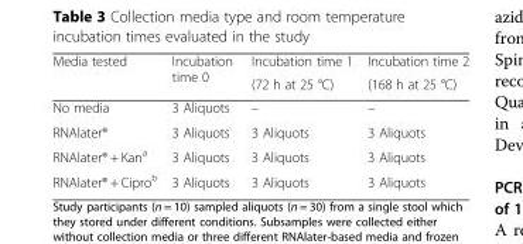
<table><thead><tr><td rowspan="2">Media tested</td><td rowspan="2">Incubation time 0</td><td rowspan="2">Incubation time 1 (72 h at 25 °C)</td><td rowspan="2">Incubation time 2 (168 h at 25 °C)</td></tr><tr></tr></thead><tbody><tr><td>No media</td><td>3 Aliquots</td><td>–</td><td>–</td></tr><tr><td>RNAlater®</td><td>3 Aliquots</td><td>3 Aliquots</td><td>3 Aliquots</td></tr><tr><td>RNAlater® + Kan<sup>a</sup></td><td>3 Aliquots</td><td>3 Aliquots</td><td>3 Aliquots</td></tr><tr><td>RNAlater® + Cipro<sup>b</sup></td><td>3 Aliquots</td><td>3 Aliquots</td><td>3 Aliquots</td></tr></tbody></table>